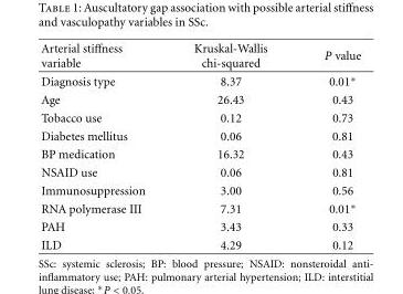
<table><thead><tr><td>Arterial stiffness variable</td><td>Kruskal-Wallis chi-squared</td><td>P value</td></tr></thead><tbody><tr><td>Diagnosis type</td><td>8.37</td><td>0.01∗</td></tr><tr><td>Age</td><td>26.43</td><td>0.43</td></tr><tr><td>Tobacco use</td><td>0.12</td><td>0.73</td></tr><tr><td>Diabetes mellitus</td><td>0.06</td><td>0.81</td></tr><tr><td>BP medication</td><td>16.32</td><td>0.43</td></tr><tr><td>NSAID use</td><td>0.06</td><td>0.81</td></tr><tr><td>Immunosuppression</td><td>3.00</td><td>0.56</td></tr><tr><td>RNA polymerase III</td><td>7.31</td><td>0.01∗</td></tr><tr><td>PAH</td><td>3.43</td><td>0.33</td></tr><tr><td>ILD</td><td>4.29</td><td>0.12</td></tr></tbody></table>